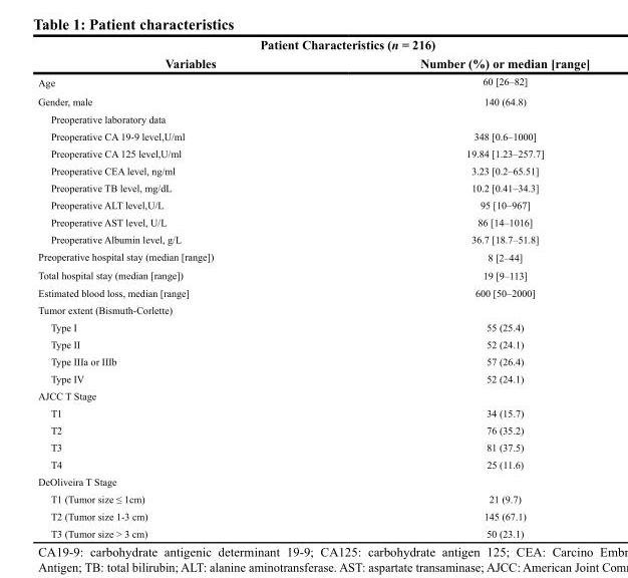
<table><thead><tr><td colspan="2">Patient Characteristics (n = 216)</td></tr><tr><td>Variables</td><td>Number (%) or median [range]</td></tr></thead><tbody><tr><td>Age</td><td>60 [26–82]</td></tr><tr><td>Gender, male</td><td>140 (64.8)</td></tr><tr><td colspan="2">Preoperative laboratory data</td></tr><tr><td>Preoperative CA 19-9 level,U/ml</td><td>348 [0.6–1000]</td></tr><tr><td>Preoperative CA 125 level,U/ml</td><td>19.84 [1.23–257.7]</td></tr><tr><td>Preoperative CEA level, ng/ml</td><td>3.23 [0.2–65.51]</td></tr><tr><td>Preoperative TB level, mg/dL</td><td>10.2 [0.41–34.3]</td></tr><tr><td>Preoperative ALT level,U/L</td><td>95 [10–967]</td></tr><tr><td>Preoperative AST level, U/L</td><td>86 [14–1016]</td></tr><tr><td>Preoperative Albumin level, g/L</td><td>36.7 [18.7–51.8]</td></tr><tr><td>Preoperative hospital stay (median [range])</td><td>8 [2–44]</td></tr><tr><td>Total hospital stay (median [range])</td><td>19 [9–113]</td></tr><tr><td>Estimated blood loss, median [range]</td><td>600 [50–2000]</td></tr><tr><td colspan="2">Tumor extent (Bismuth-Corlette)</td></tr><tr><td>Type I</td><td>55 (25.4)</td></tr><tr><td>Type II</td><td>52 (24.1)</td></tr><tr><td>Type IIIa or IIIb</td><td>57 (26.4)</td></tr><tr><td>Type IV</td><td>52 (24.1)</td></tr><tr><td colspan="2">AJCC T Stage</td></tr><tr><td>T1</td><td>34 (15.7)</td></tr><tr><td>T2</td><td>76 (35.2)</td></tr><tr><td>T3</td><td>81 (37.5)</td></tr><tr><td>T4</td><td>25 (11.6)</td></tr><tr><td colspan="2">DeOliveira T Stage</td></tr><tr><td>T1 (Tumor size ≤ 1cm)</td><td>21 (9.7)</td></tr><tr><td>T2 (Tumor size 1-3 cm)</td><td>145 (67.1)</td></tr><tr><td>T3 (Tumor size &gt; 3 cm)</td><td>50 (23.1)</td></tr></tbody></table>